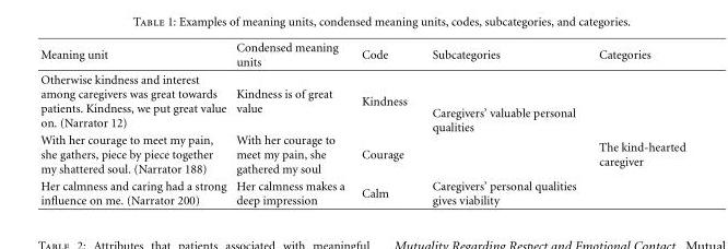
<table><thead><tr><td>Meaning unit</td><td>Condensed meaning units</td><td>Code</td><td>Subcategories</td><td>Categories</td></tr></thead><tbody><tr><td>Otherwise kindness and interest among caregivers was great towards patients. Kindness, we put great value on. (Narrator 12)</td><td>Kindness is of great value</td><td>Kindness</td><td rowspan="2">Caregivers’ valuable personal qualities</td><td></td></tr><tr><td>With her courage to meet my pain, she gathers, piece by piece together my shattered soul. (Narrator 188)</td><td>With her courage to meet my pain, she gathered my soul</td><td>Courage</td><td>The kind-hearted caregiver</td></tr><tr><td>Her calmness and caring had a strong influence on me. (Narrator 200)</td><td>Her calmness makes a deep impression</td><td>Calm</td><td>Caregivers’ personal qualities gives viability</td><td></td></tr></tbody></table>